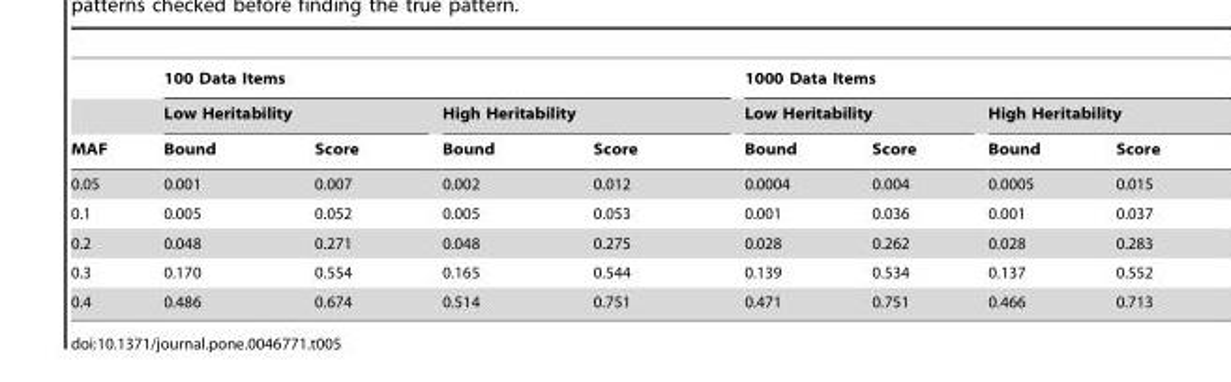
<table><thead><tr><td rowspan="3">MAF</td><td colspan="4">100 Data Items</td><td colspan="4">1000 Data Items</td></tr><tr><td colspan="2">Low Heritability</td><td colspan="2">High Heritability</td><td colspan="2">Low Heritability</td><td colspan="2">High Heritability</td></tr><tr><td>Bound</td><td>Score</td><td>Bound</td><td>Score</td><td>Bound</td><td>Score</td><td>Bound</td><td>Score</td></tr></thead><tbody><tr><td>0.05</td><td>0.001</td><td>0.007</td><td>0.002</td><td>0.012</td><td>0.0004</td><td>0.004</td><td>0.0005</td><td>0.015</td></tr><tr><td>0.1</td><td>0.005</td><td>0.052</td><td>0.005</td><td>0.053</td><td>0.001</td><td>0.036</td><td>0.001</td><td>0.037</td></tr><tr><td>0.2</td><td>0.048</td><td>0.271</td><td>0.048</td><td>0.275</td><td>0.028</td><td>0.262</td><td>0.028</td><td>0.283</td></tr><tr><td>0.3</td><td>0.170</td><td>0.554</td><td>0.165</td><td>0.544</td><td>0.139</td><td>0.534</td><td>0.137</td><td>0.552</td></tr><tr><td>0.4</td><td>0.486</td><td>0.674</td><td>0.514</td><td>0.751</td><td>0.471</td><td>0.751</td><td>0.466</td><td>0.713</td></tr></tbody></table>